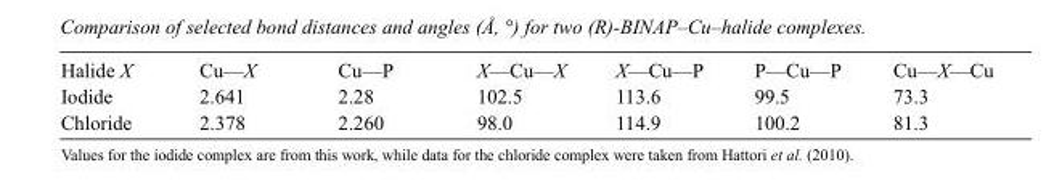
<table><thead><tr><td>Halide X</td><td>Cu—X</td><td>Cu—P</td><td>X—Cu—X</td><td>X—Cu—P</td><td>P—Cu—P</td><td>Cu—X—Cu</td></tr></thead><tbody><tr><td>Iodide</td><td>2.641</td><td>2.28</td><td>102.5</td><td>113.6</td><td>99.5</td><td>73.3</td></tr><tr><td>Chloride</td><td>2.378</td><td>2.260</td><td>98.0</td><td>114.9</td><td>100.2</td><td>81.3</td></tr></tbody></table>